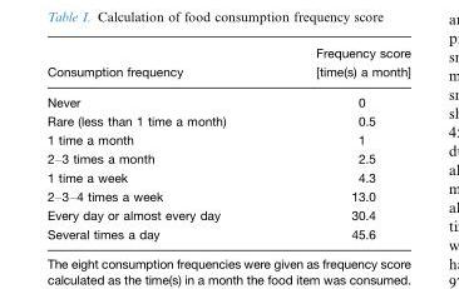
<table><thead><tr><td>Consumption frequency</td><td>Frequency score [time(s) a month]</td></tr></thead><tbody><tr><td>Never</td><td>0</td></tr><tr><td>Rare (less than 1 time a month)</td><td>0.5</td></tr><tr><td>1 time a month</td><td>1</td></tr><tr><td>2–3 times a month</td><td>2.5</td></tr><tr><td>1 time a week</td><td>4.3</td></tr><tr><td>2–3–4 times a week</td><td>13.0</td></tr><tr><td>Every day or almost every day</td><td>30.4</td></tr><tr><td>Several times a day</td><td>45.6</td></tr></tbody></table>